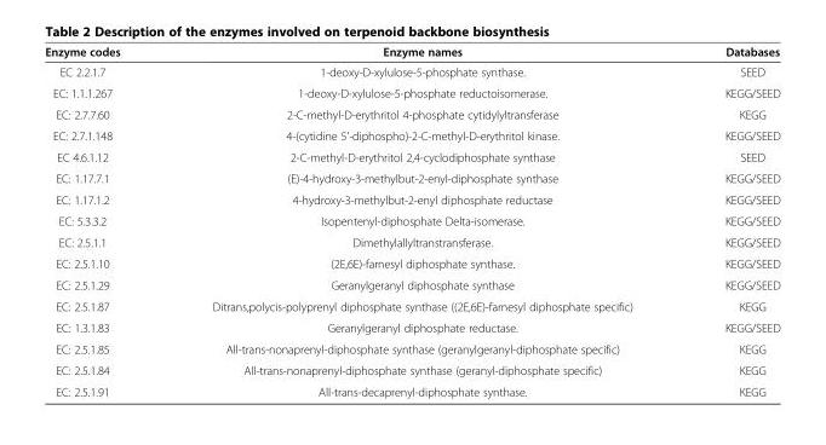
<table><thead><tr><td>Enzyme codes</td><td>Enzyme names</td><td>Databases</td></tr></thead><tbody><tr><td>EC 2.2.1.7</td><td>1-deoxy-D-xylulose-5-phosphate synthase.</td><td>SEED</td></tr><tr><td>EC: 1.1.1.267</td><td>1-deoxy-D-xylulose-5-phosphate reductoisomerase.</td><td>KEGG/SEED</td></tr><tr><td>EC: 2.7.7.60</td><td>2-C-methyl-D-erythritol 4-phosphate cytidylyltransferase</td><td>KEGG</td></tr><tr><td>EC: 2.7.1.148</td><td>4-(cytidine 5&#x27;-diphospho)-2-C-methyl-D-erythritol kinase.</td><td>KEGG/SEED</td></tr><tr><td>EC 4.6.1.12</td><td>2-C-methyl-D-erythritol 2,4-cyclodiphosphate synthase</td><td>SEED</td></tr><tr><td>EC: 1.17.7.1</td><td>(E)-4-hydroxy-3-methylbut-2-enyl-diphosphate synthase</td><td>KEGG/SEED</td></tr><tr><td>EC: 1.17.1.2</td><td>4-hydroxy-3-methylbut-2-enyl diphosphate reductase</td><td>KEGG/SEED</td></tr><tr><td>EC: 5.3.3.2</td><td>Isopentenyl-diphosphate Delta-isomerase.</td><td>KEGG/SEED</td></tr><tr><td>EC: 2.5.1.1</td><td>Dimethylallyltranstransferase.</td><td>KEGG/SEED</td></tr><tr><td>EC: 2.5.1.10</td><td>(2E,6E)-farnesyl diphosphate synthase.</td><td>KEGG/SEED</td></tr><tr><td>EC: 2.5.1.29</td><td>Geranylgeranyl diphosphate synthase</td><td>KEGG/SEED</td></tr><tr><td>EC: 2.5.1.87</td><td>Ditrans,polycis-polyprenyl diphosphate synthase ((2E,6E)-farnesyl diphosphate specific)</td><td>KEGG</td></tr><tr><td>EC: 1.3.1.83</td><td>Geranylgeranyl diphosphate reductase.</td><td>KEGG/SEED</td></tr><tr><td>EC: 2.5.1.85</td><td>All-trans-nonaprenyl-diphosphate synthase (geranylgeranyl-diphosphate specific)</td><td>KEGG</td></tr><tr><td>EC: 2.5.1.84</td><td>All-trans-nonaprenyl-diphosphate synthase (geranyl-diphosphate specific)</td><td>KEGG</td></tr><tr><td>EC: 2.5.1.91</td><td>All-trans-decaprenyl-diphosphate synthase.</td><td>KEGG</td></tr></tbody></table>